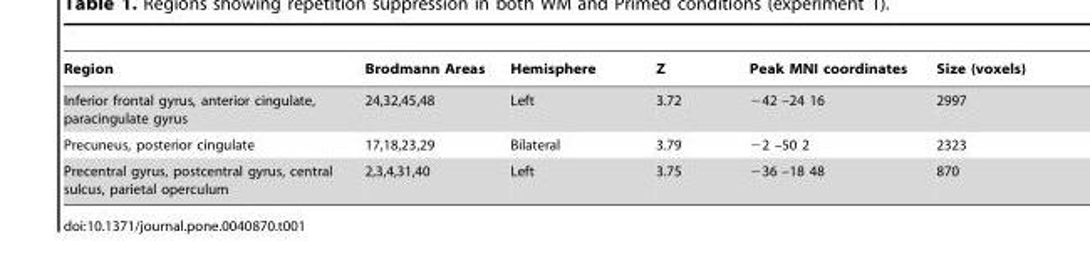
<table><thead><tr><td>Region</td><td>Brodmann Areas</td><td>Hemisphere</td><td>Z</td><td>Peak MNI coordinates</td><td>Size (voxels)</td></tr></thead><tbody><tr><td>Inferior frontal gyrus, anterior cingulate, paracingulate gyrus</td><td>24,32,45,48</td><td>Left</td><td>3.72</td><td>−42 –24 16</td><td>2997</td></tr><tr><td>Precuneus, posterior cingulate</td><td>17,18,23,29</td><td>Bilateral</td><td>3.79</td><td>−2 –50 2</td><td>2323</td></tr><tr><td>Precentral gyrus, postcentral gyrus, central sulcus, parietal operculum</td><td>2,3,4,31,40</td><td>Left</td><td>3.75</td><td>−36 –18 48</td><td>870</td></tr></tbody></table>